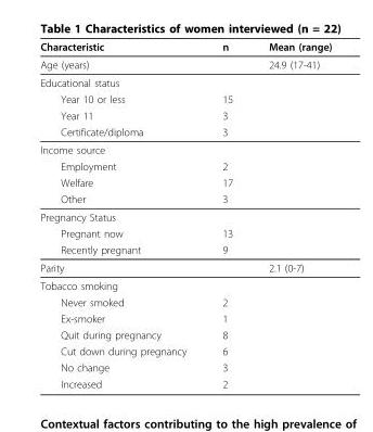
<table><thead><tr><td>Characteristic</td><td>n</td><td>Mean (range)</td></tr></thead><tbody><tr><td>Age (years)</td><td></td><td>24.9 (17-41)</td></tr><tr><td colspan="3">Educational status</td></tr><tr><td>Year 10 or less</td><td>15</td><td></td></tr><tr><td>Year 11</td><td>3</td><td></td></tr><tr><td>Certificate/diploma</td><td>3</td><td></td></tr><tr><td colspan="3">Income source</td></tr><tr><td>Employment</td><td>2</td><td></td></tr><tr><td>Welfare</td><td>17</td><td></td></tr><tr><td>Other</td><td>3</td><td></td></tr><tr><td colspan="3">Pregnancy Status</td></tr><tr><td>Pregnant now</td><td>13</td><td></td></tr><tr><td>Recently pregnant</td><td>9</td><td></td></tr><tr><td>Parity</td><td></td><td>2.1 (0-7)</td></tr><tr><td colspan="3">Tobacco smoking</td></tr><tr><td>Never smoked</td><td>2</td><td></td></tr><tr><td>Ex-smoker</td><td>1</td><td></td></tr><tr><td>Quit during pregnancy</td><td>8</td><td></td></tr><tr><td>Cut down during pregnancy</td><td>6</td><td></td></tr><tr><td>No change</td><td>3</td><td></td></tr><tr><td>Increased</td><td>2</td><td></td></tr></tbody></table>